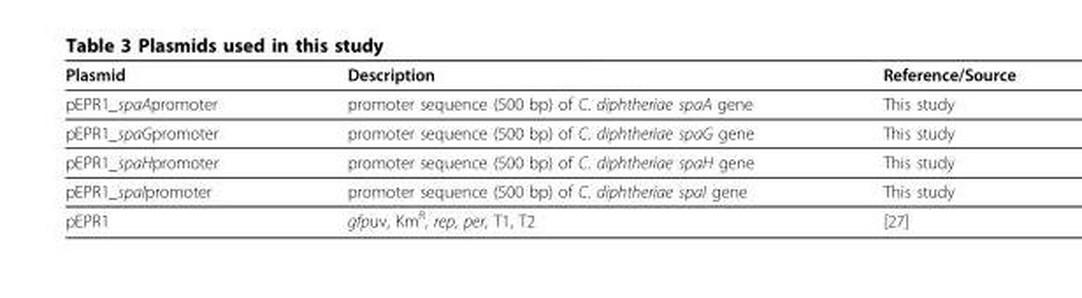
<table><thead><tr><td>Plasmid</td><td>Description</td><td>Reference/Source</td></tr></thead><tbody><tr><td>pEPR1_spaApromoter</td><td>promoter sequence (500 bp) of C. diphtheriae spaA gene</td><td>This study</td></tr><tr><td>pEPR1_spaGpromoter</td><td>promoter sequence (500 bp) of C. diphtheriae spaG gene</td><td>This study</td></tr><tr><td>pEPR1_spaHpromoter</td><td>promoter sequence (500 bp) of C. diphtheriae spaH gene</td><td>This study</td></tr><tr><td>pEPR1_spaIpromoter</td><td>promoter sequence (500 bp) of C. diphtheriae spaI gene</td><td>This study</td></tr><tr><td>pEPR1</td><td>gfpuv, Km<sup>R</sup>, rep, per, T1, T2</td><td>[27]</td></tr></tbody></table>